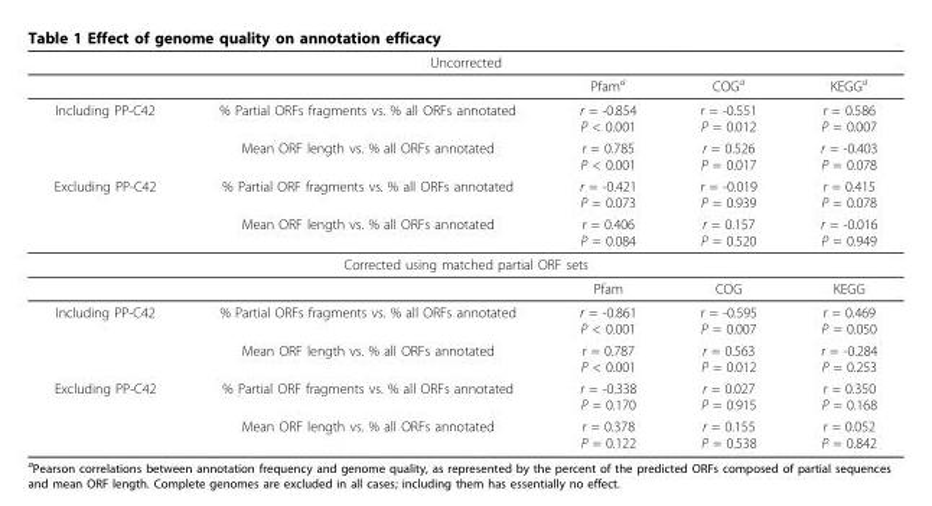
<table><thead><tr><td colspan="5">Uncorrected</td></tr><tr><td></td><td></td><td>Pfam<sup>a</sup></td><td>COG<sup>a</sup></td><td>KEGG<sup>a</sup></td></tr></thead><tbody><tr><td rowspan="2">Including PP-C42</td><td>% Partial ORFs fragments vs. % all ORFs annotated</td><td>r = -0.854 P &lt; 0.001</td><td>r = -0.551 P = 0.012</td><td>r = 0.586 P = 0.007</td></tr><tr><td>Mean ORF length vs. % all ORFs annotated</td><td>r = 0.785 P &lt; 0.001</td><td>r = 0.526 P = 0.017</td><td>r = -0.403 P = 0.078</td></tr><tr><td rowspan="2">Excluding PP-C42</td><td>% Partial ORF fragments vs. % all ORFs annotated</td><td>r = -0.421 P = 0.073</td><td>r = -0.019 P = 0.939</td><td>r = 0.415 P = 0.078</td></tr><tr><td>Mean ORF length vs. % all ORFs annotated</td><td>r = 0.406 P = 0.084</td><td>r = 0.157 P = 0.520</td><td>r = -0.016 P = 0.949</td></tr><tr><td colspan="5">Corrected using matched partial ORF sets</td></tr><tr><td></td><td></td><td>Pfam</td><td>COG</td><td>KEGG</td></tr><tr><td rowspan="2">Including PP-C42</td><td>% Partial ORFs fragments vs. % all ORFs annotated</td><td>r = -0.861 P &lt; 0.001</td><td>r = -0.595 P = 0.007</td><td>r = 0.469 P = 0.050</td></tr><tr><td>Mean ORF length vs. % all ORFs annotated</td><td>r = 0.787 P &lt; 0.001</td><td>r = 0.563 P = 0.012</td><td>r = -0.284 P = 0.253</td></tr><tr><td rowspan="2">Excluding PP-C42</td><td>% Partial ORF fragments vs. % all ORFs annotated</td><td>r = -0.338 P = 0.170</td><td>r = 0.027 P = 0.915</td><td>r = 0.350 P = 0.168</td></tr><tr><td>Mean ORF length vs. % all ORFs annotated</td><td>r = 0.378 P = 0.122</td><td>r = 0.155 P = 0.538</td><td>r = 0.052 P = 0.842</td></tr></tbody></table>